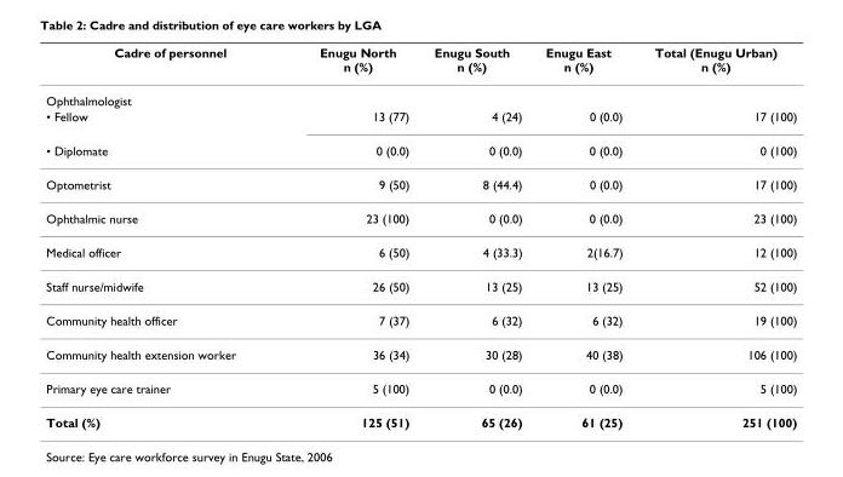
<table><thead><tr><td>Cadre of personnel</td><td>Enugu North n (%)</td><td>Enugu South n (%)</td><td>Enugu East n (%)</td><td>Total (Enugu Urban) n (%)</td></tr></thead><tbody><tr><td colspan="5">Ophthalmologist</td></tr><tr><td>• Fellow</td><td>13 (77)</td><td>4 (24)</td><td>0 (0.0)</td><td>17 (100)</td></tr><tr><td>• Diplomate</td><td>0 (0.0)</td><td>0 (0.0)</td><td>0 (0.0)</td><td>0 (100)</td></tr><tr><td>Optometrist</td><td>9 (50)</td><td>8 (44.4)</td><td>0 (0.0)</td><td>17 (100)</td></tr><tr><td>Ophthalmic nurse</td><td>23 (100)</td><td>0 (0.0)</td><td>0 (0.0)</td><td>23 (100)</td></tr><tr><td>Medical officer</td><td>6 (50)</td><td>4 (33.3)</td><td>2(16.7)</td><td>12 (100)</td></tr><tr><td>Staff nurse/midwife</td><td>26 (50)</td><td>13 (25)</td><td>13 (25)</td><td>52 (100)</td></tr><tr><td>Community health officer</td><td>7 (37)</td><td>6 (32)</td><td>6 (32)</td><td>19 (100)</td></tr><tr><td>Community health extension worker</td><td>36 (34)</td><td>30 (28)</td><td>40 (38)</td><td>106 (100)</td></tr><tr><td>Primary eye care trainer</td><td>5 (100)</td><td>0 (0.0)</td><td>0 (0.0)</td><td>5 (100)</td></tr><tr><td>Total (%)</td><td>125 (51)</td><td>65 (26)</td><td>61 (25)</td><td>251 (100)</td></tr></tbody></table>